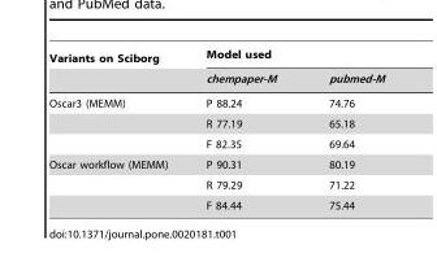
<table><thead><tr><td rowspan="2">Variants on Sciborg</td><td colspan="2">Model used</td></tr><tr><td>chempaper-M</td><td>pubmed-M</td></tr></thead><tbody><tr><td rowspan="3">Oscar3 (MEMM)</td><td>P 88.24</td><td>74.76</td></tr><tr><td>R 77.19</td><td>65.18</td></tr><tr><td>F 82.35</td><td>69.64</td></tr><tr><td rowspan="3">Oscar workflow (MEMM)</td><td>P 90.31</td><td>80.19</td></tr><tr><td>R 79.29</td><td>71.22</td></tr><tr><td>F 84.44</td><td>75.44</td></tr></tbody></table>